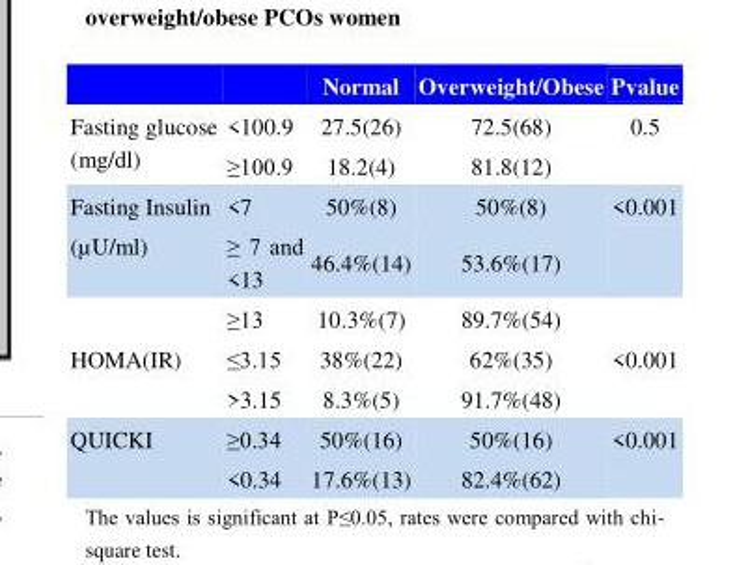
<table><thead><tr><td></td><td></td><td>Normal</td><td>Overweight/Obese</td><td>Pvalue</td></tr></thead><tbody><tr><td rowspan="2">Fasting glucose (mg/dl)</td><td>&lt;100.9</td><td>27.5(26)</td><td>72.5(68)</td><td rowspan="2">0.5</td></tr><tr><td>≥100.9</td><td>18.2(4)</td><td>81.8(12)</td></tr><tr><td>Fasting Insulin</td><td>&lt;7</td><td>50%(8)</td><td>50%(8)</td><td>&lt;0.001</td></tr><tr><td rowspan="2">(µU/ml)</td><td>≥ 7 and &lt;13</td><td>46.4%(14)</td><td>53.6%(17)</td><td></td></tr><tr><td>≥13</td><td>10.3%(7)</td><td>89.7%(54)</td><td></td></tr><tr><td rowspan="2">HOMA(IR)</td><td>≤3.15</td><td>38%(22)</td><td>62%(35)</td><td rowspan="2">&lt;0.001</td></tr><tr><td>&gt;3.15</td><td>8.3%(5)</td><td>91.7%(48)</td></tr><tr><td rowspan="2">QUICKI</td><td>≥0.34</td><td>50%(16)</td><td>50%(16)</td><td rowspan="2">&lt;0.001</td></tr><tr><td>&lt;0.34</td><td>17.6%(13)</td><td>82.4%(62)</td></tr></tbody></table>